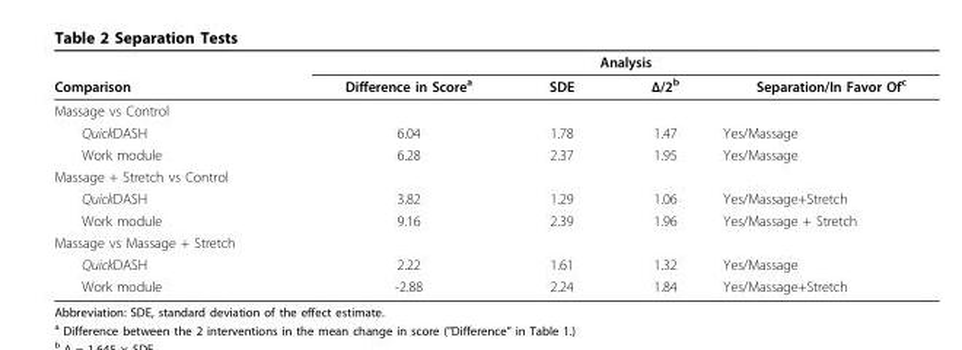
<table><thead><tr><td rowspan="2">Comparison</td><td colspan="4">Analysis</td></tr><tr><td>Difference in Score<sup>a</sup></td><td>SDE</td><td>Δ/2<sup>b</sup></td><td>Separation/In Favor Of<sup>c</sup></td></tr></thead><tbody><tr><td colspan="5">Massage vs Control</td></tr><tr><td>QuickDASH</td><td>6.04</td><td>1.78</td><td>1.47</td><td>Yes/Massage</td></tr><tr><td>Work module</td><td>6.28</td><td>2.37</td><td>1.95</td><td>Yes/Massage</td></tr><tr><td colspan="5">Massage + Stretch vs Control</td></tr><tr><td>QuickDASH</td><td>3.82</td><td>1.29</td><td>1.06</td><td>Yes/Massage+Stretch</td></tr><tr><td>Work module</td><td>9.16</td><td>2.39</td><td>1.96</td><td>Yes/Massage + Stretch</td></tr><tr><td colspan="5">Massage vs Massage + Stretch</td></tr><tr><td>QuickDASH</td><td>2.22</td><td>1.61</td><td>1.32</td><td>Yes/Massage</td></tr><tr><td>Work module</td><td>-2.88</td><td>2.24</td><td>1.84</td><td>Yes/Massage+Stretch</td></tr></tbody></table>